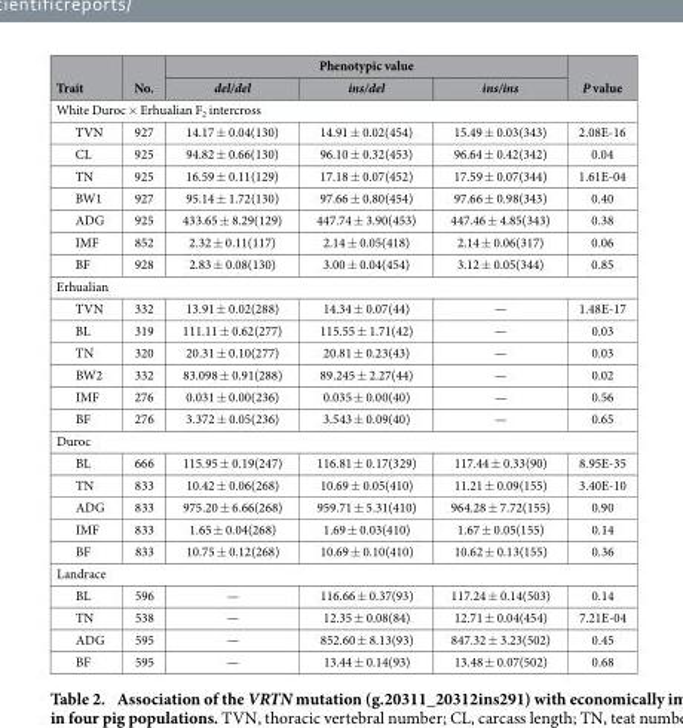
<table><thead><tr><td rowspan="2">Trait</td><td rowspan="2">No.</td><td colspan="3">Phenotypic value</td><td rowspan="2">P value</td></tr><tr><td>del/del</td><td>ins/del</td><td>ins/ins</td></tr></thead><tbody><tr><td colspan="6">White Duroc × Erhualian F<sub>2</sub> intercross</td></tr><tr><td>TVN</td><td>927</td><td>14.17 ± 0.04(130)</td><td>14.91 ± 0.02(454)</td><td>15.49 ± 0.03(343)</td><td>2.08E-16</td></tr><tr><td>CL</td><td>925</td><td>94.82 ± 0.66(130)</td><td>96.10 ± 0.32(453)</td><td>96.64 ± 0.42(342)</td><td>0.04</td></tr><tr><td>TN</td><td>925</td><td>16.59 ± 0.11(129)</td><td>17.18 ± 0.07(452)</td><td>17.59 ± 0.07(344)</td><td>1.61E-04</td></tr><tr><td>BW1</td><td>927</td><td>95.14 ± 1.72(130)</td><td>97.66 ± 0.80(454)</td><td>97.66 ± 0.98(343)</td><td>0.40</td></tr><tr><td>ADG</td><td>925</td><td>433.65 ± 8.29(129)</td><td>447.74 ± 3.90(453)</td><td>447.46 ± 4.85(343)</td><td>0.38</td></tr><tr><td>IMF</td><td>852</td><td>2.32 ± 0.11(117)</td><td>2.14 ± 0.05(418)</td><td>2.14 ± 0.06(317)</td><td>0.06</td></tr><tr><td>BF</td><td>928</td><td>2.83 ± 0.08(130)</td><td>3.00 ± 0.04(454)</td><td>3.12 ± 0.05(344)</td><td>0.85</td></tr><tr><td colspan="6">Erhualian</td></tr><tr><td>TVN</td><td>332</td><td>13.91 ± 0.02(288)</td><td>14.34 ± 0.07(44)</td><td>—</td><td>1.48E-17</td></tr><tr><td>BL</td><td>319</td><td>111.11 ± 0.62(277)</td><td>115.55 ± 1.71(42)</td><td>—</td><td>0.03</td></tr><tr><td>TN</td><td>320</td><td>20.31 ± 0.10(277)</td><td>20.81 ± 0.23(43)</td><td>—</td><td>0.03</td></tr><tr><td>BW2</td><td>332</td><td>83.098 ± 0.91(288)</td><td>89.245 ± 2.27(44)</td><td>—</td><td>0.02</td></tr><tr><td>IMF</td><td>276</td><td>0.031 ± 0.00(236)</td><td>0.035 ± 0.00(40)</td><td>—</td><td>0.56</td></tr><tr><td>BF</td><td>276</td><td>3.372 ± 0.05(236)</td><td>3.543 ± 0.09(40)</td><td>—</td><td>0.65</td></tr><tr><td colspan="6">Duroc</td></tr><tr><td>BL</td><td>666</td><td>115.95 ± 0.19(247)</td><td>116.81 ± 0.17(329)</td><td>117.44 ± 0.33(90)</td><td>8.95E-35</td></tr><tr><td>TN</td><td>833</td><td>10.42 ± 0.06(268)</td><td>10.69 ± 0.05(410)</td><td>11.21 ± 0.09(155)</td><td>3.40E-10</td></tr><tr><td>ADG</td><td>833</td><td>975.20 ± 6.66(268)</td><td>959.71 ± 5.31(410)</td><td>964.28 ± 7.72(155)</td><td>0.90</td></tr><tr><td>IMF</td><td>833</td><td>1.65 ± 0.04(268)</td><td>1.69 ± 0.03(410)</td><td>1.67 ± 0.05(155)</td><td>0.14</td></tr><tr><td>BF</td><td>833</td><td>10.75 ± 0.12(268)</td><td>10.69 ± 0.10(410)</td><td>10.62 ± 0.13(155)</td><td>0.36</td></tr><tr><td colspan="6">Landrace</td></tr><tr><td>BL</td><td>596</td><td>—</td><td>116.66 ± 0.37(93)</td><td>117.24 ± 0.14(503)</td><td>0.14</td></tr><tr><td>TN</td><td>538</td><td>—</td><td>12.35 ± 0.08(84)</td><td>12.71 ± 0.04(454)</td><td>7.21E-04</td></tr><tr><td>ADG</td><td>595</td><td>—</td><td>852.60 ± 8.13(93)</td><td>847.32 ± 3.23(502)</td><td>0.45</td></tr><tr><td>BF</td><td>595</td><td>—</td><td>13.44 ± 0.14(93)</td><td>13.48 ± 0.07(502)</td><td>0.68</td></tr></tbody></table>